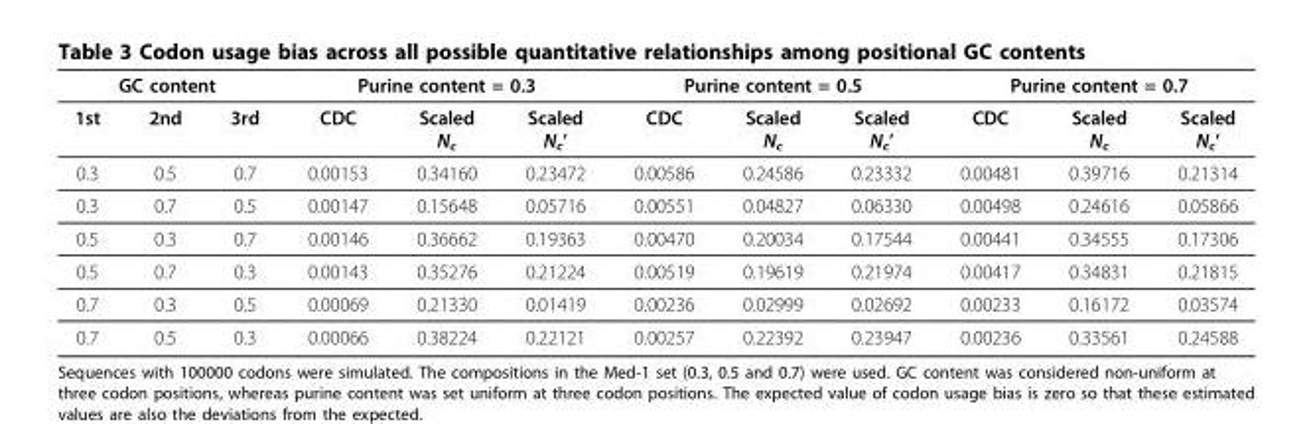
<table><thead><tr><td colspan="3">GC content</td><td colspan="3">Purine content = 0.3</td><td colspan="3">Purine content = 0.5</td><td colspan="3">Purine content = 0.7</td></tr><tr><td>1st</td><td>2nd</td><td>3rd</td><td>CDC</td><td>Scaled N<sub>c</sub></td><td>Scaled N<sub>c</sub>’</td><td>CDC</td><td>Scaled N<sub>c</sub></td><td>Scaled N<sub>c</sub>’</td><td>CDC</td><td>Scaled N<sub>c</sub></td><td>Scaled N<sub>c</sub>’</td></tr></thead><tbody><tr><td>0.3</td><td>0.5</td><td>0.7</td><td>0.00153</td><td>0.34160</td><td>0.23472</td><td>0.00586</td><td>0.24586</td><td>0.23332</td><td>0.00481</td><td>0.39716</td><td>0.21314</td></tr><tr><td>0.3</td><td>0.7</td><td>0.5</td><td>0.00147</td><td>0.15648</td><td>0.05716</td><td>0.00551</td><td>0.04827</td><td>0.06330</td><td>0.00498</td><td>0.24616</td><td>0.05866</td></tr><tr><td>0.5</td><td>0.3</td><td>0.7</td><td>0.00146</td><td>0.36662</td><td>0.19363</td><td>0.00470</td><td>0.20034</td><td>0.17544</td><td>0.00441</td><td>0.34555</td><td>0.17306</td></tr><tr><td>0.5</td><td>0.7</td><td>0.3</td><td>0.00143</td><td>0.35276</td><td>0.21224</td><td>0.00519</td><td>0.19619</td><td>0.21974</td><td>0.00417</td><td>0.34831</td><td>0.21815</td></tr><tr><td>0.7</td><td>0.3</td><td>0.5</td><td>0.00069</td><td>0.21330</td><td>0.01419</td><td>0.00236</td><td>0.02999</td><td>0.02692</td><td>0.00233</td><td>0.16172</td><td>0.03574</td></tr><tr><td>0.7</td><td>0.5</td><td>0.3</td><td>0.00066</td><td>0.38224</td><td>0.22121</td><td>0.00257</td><td>0.22392</td><td>0.23947</td><td>0.00236</td><td>0.33561</td><td>0.24588</td></tr></tbody></table>